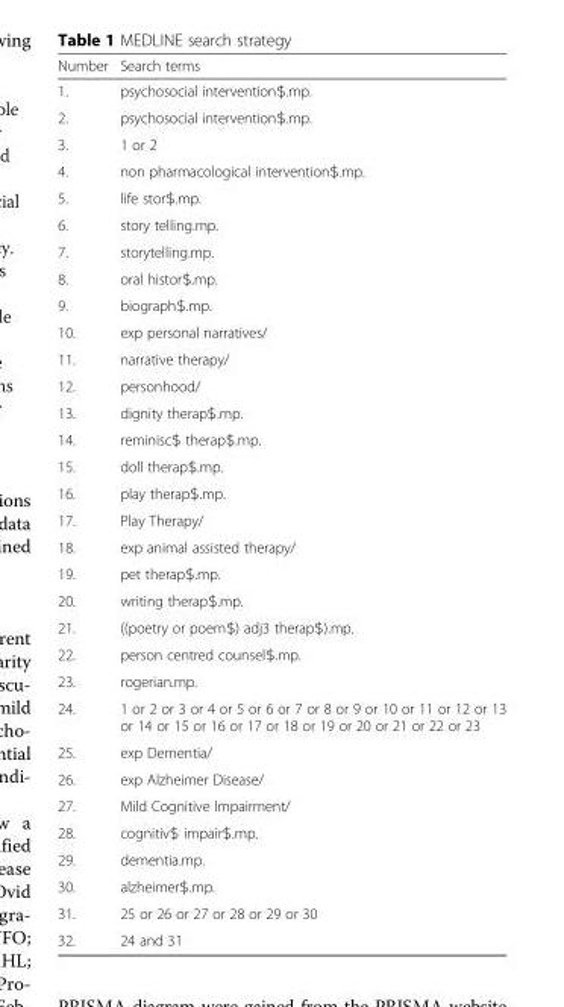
<table><thead><tr><td>Number</td><td>Search terms</td></tr></thead><tbody><tr><td>1.</td><td>psychosocial intervention$.mp.</td></tr><tr><td>2.</td><td>psychosocial intervention$.mp.</td></tr><tr><td>3.</td><td>1 or 2</td></tr><tr><td>4.</td><td>non pharmacological intervention$.mp.</td></tr><tr><td>5.</td><td>life stor$.mp.</td></tr><tr><td>6.</td><td>story telling.mp.</td></tr><tr><td>7.</td><td>storytelling.mp.</td></tr><tr><td>8.</td><td>oral histor$.mp.</td></tr><tr><td>9.</td><td>biograph$.mp.</td></tr><tr><td>10.</td><td>exp personal narratives/</td></tr><tr><td>11.</td><td>narrative therapy/</td></tr><tr><td>12.</td><td>personhood/</td></tr><tr><td>13.</td><td>dignity therap$.mp.</td></tr><tr><td>14.</td><td>reminisc$ therap$.mp.</td></tr><tr><td>15.</td><td>doll therap$.mp.</td></tr><tr><td>16.</td><td>play therap$.mp.</td></tr><tr><td>17.</td><td>Play Therapy/</td></tr><tr><td>18.</td><td>exp animal assisted therapy/</td></tr><tr><td>19.</td><td>pet therap$.mp.</td></tr><tr><td>20.</td><td>writing therap$.mp.</td></tr><tr><td>21.</td><td>((poetry or poem$) adj3 therap$).mp.</td></tr><tr><td>22.</td><td>person centred counsel$.mp.</td></tr><tr><td>23.</td><td>rogerian.mp.</td></tr><tr><td>24.</td><td>1 or 2 or 3 or 4 or 5 or 6 or 7 or 8 or 9 or 10 or 11 or 12 or 13 or 14 or 15 or 16 or 17 or 18 or 19 or 20 or 21 or 22 or 23</td></tr><tr><td>25.</td><td>exp Dementia/</td></tr><tr><td>26.</td><td>exp Alzheimer Disease/</td></tr><tr><td>27.</td><td>Mild Cognitive Impairment/</td></tr><tr><td>28.</td><td>cognitiv$ impair$.mp.</td></tr><tr><td>29.</td><td>dementia.mp.</td></tr><tr><td>30.</td><td>alzheimer$.mp.</td></tr><tr><td>31.</td><td>25 or 26 or 27 or 28 or 29 or 30</td></tr><tr><td>32.</td><td>24 and 31</td></tr></tbody></table>